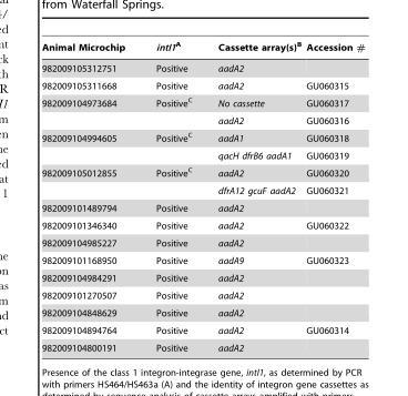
<table><thead><tr><td>Animal Microchip</td><td>intI1<sup>A</sup></td><td>Cassette array(s)<sup>B</sup></td><td>Accession #</td></tr></thead><tbody><tr><td>982009105312751</td><td>Positive</td><td>aadA2</td><td></td></tr><tr><td>982009105311668</td><td>Positive</td><td>aadA2</td><td>GU060315</td></tr><tr><td rowspan="2">982009104973684</td><td>Positive<sup>C</sup></td><td>No cassette</td><td>GU060317</td></tr><tr><td></td><td>aadA2</td><td>GU060316</td></tr><tr><td rowspan="2">982009104994605</td><td>Positive<sup>C</sup></td><td>aadA1</td><td>GU060318</td></tr><tr><td></td><td>qacH dfrB6 aadA1</td><td>GU060319</td></tr><tr><td rowspan="2">982009105012855</td><td>Positive<sup>C</sup></td><td>aadA2</td><td>GU060320</td></tr><tr><td></td><td>dfrA12 gcuF aadA2</td><td>GU060321</td></tr><tr><td>982009101489794</td><td>Positive</td><td>aadA2</td><td></td></tr><tr><td>982009101346340</td><td>Positive</td><td>aadA2</td><td>GU060322</td></tr><tr><td>982009104985227</td><td>Positive</td><td>aadA2</td><td></td></tr><tr><td>982009101168950</td><td>Positive</td><td>aadA9</td><td>GU060323</td></tr><tr><td>982009104984291</td><td>Positive</td><td>aadA2</td><td></td></tr><tr><td>982009101270507</td><td>Positive</td><td>aadA2</td><td></td></tr><tr><td>982009104848629</td><td>Positive</td><td>aadA2</td><td></td></tr><tr><td>982009104894764</td><td>Positive</td><td>aadA2</td><td>GU060314</td></tr><tr><td>982009104800191</td><td>Positive</td><td>aadA2</td><td></td></tr></tbody></table>